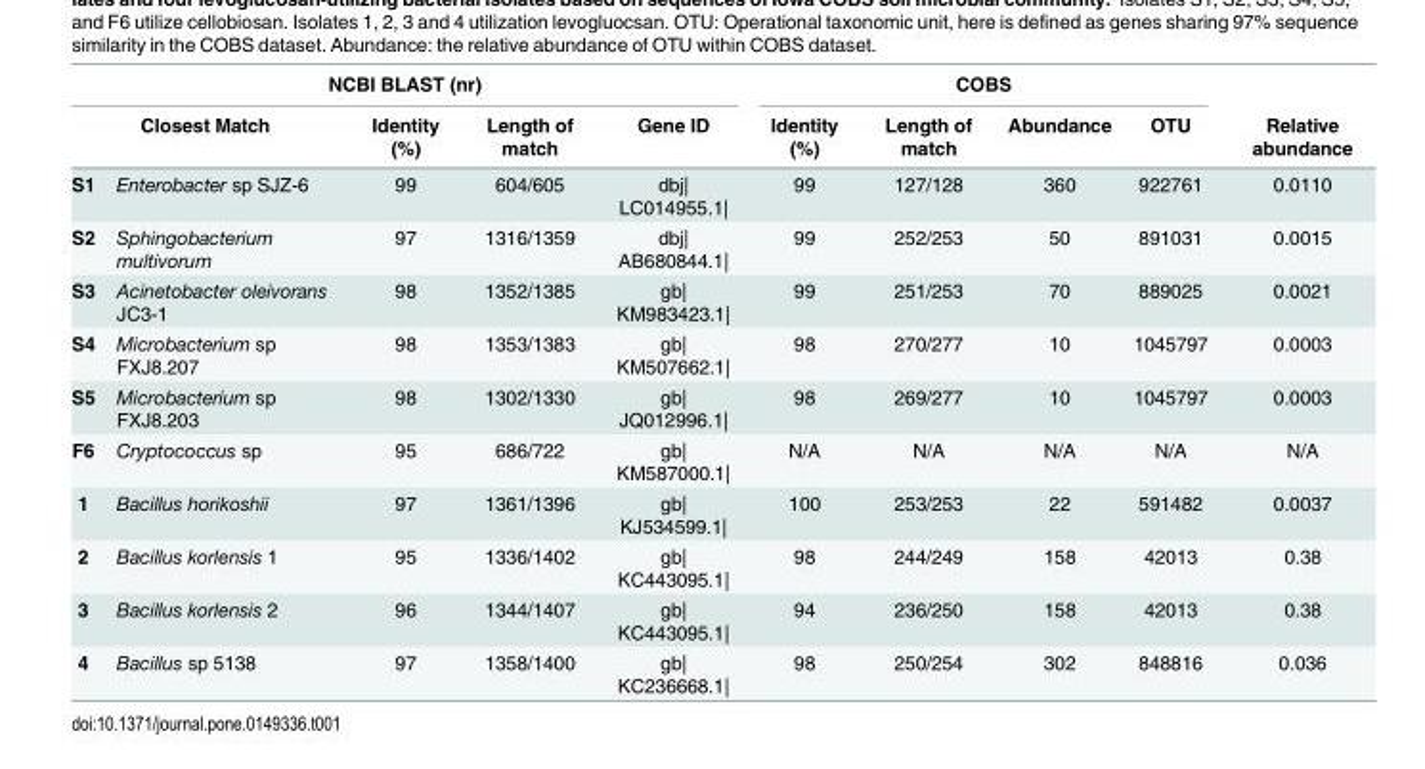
<table><thead><tr><td colspan="5">NCBI BLAST (nr)</td><td colspan="4">COBS</td><td rowspan="3">Relative abundance 0.0110</td></tr><tr><td colspan="2">Closest Match</td><td rowspan="2">Identity (%) 99</td><td rowspan="2">Length of match 604/605</td><td rowspan="2">Gene ID dbj| LC014955.1|</td><td rowspan="2">Identity (%) 99</td><td rowspan="2">Length of match 127/128</td><td rowspan="2">Abundance 360</td><td rowspan="2">OTU 922761</td></tr><tr><td>S1</td><td>Enterobacter sp SJZ-6</td></tr></thead><tbody><tr><td>S2</td><td>Sphingobacterium multivorum</td><td>97</td><td>1316/1359</td><td>dbj| AB680844.1|</td><td>99</td><td>252/253</td><td>50</td><td>891031</td><td>0.0015</td></tr><tr><td>S3</td><td>Acinetobacter oleivorans JC3-1</td><td>98</td><td>1352/1385</td><td>gb| KM983423.1|</td><td>99</td><td>251/253</td><td>70</td><td>889025</td><td>0.0021</td></tr><tr><td>S4</td><td>Microbacterium sp FXJ8.207</td><td>98</td><td>1353/1383</td><td>gb| KM507662.1|</td><td>98</td><td>270/277</td><td>10</td><td>1045797</td><td>0.0003</td></tr><tr><td>S5</td><td>Microbacterium sp FXJ8.203</td><td>98</td><td>1302/1330</td><td>gb| JQ012996.1|</td><td>98</td><td>269/277</td><td>10</td><td>1045797</td><td>0.0003</td></tr><tr><td>F6</td><td>Cryptococcus sp</td><td>95</td><td>686/722</td><td>gb| KM587000.1|</td><td>N/A</td><td>N/A</td><td>N/A</td><td>N/A</td><td>N/A</td></tr><tr><td>1</td><td>Bacillus horikoshii</td><td>97</td><td>1361/1396</td><td>gb| KJ534599.1|</td><td>100</td><td>253/253</td><td>22</td><td>591482</td><td>0.0037</td></tr><tr><td>2</td><td>Bacillus korlensis 1</td><td>95</td><td>1336/1402</td><td>gb| KC443095.1|</td><td>98</td><td>244/249</td><td>158</td><td>42013</td><td>0.38</td></tr><tr><td>3</td><td>Bacillus korlensis 2</td><td>96</td><td>1344/1407</td><td>gb| KC443095.1|</td><td>94</td><td>236/250</td><td>158</td><td>42013</td><td>0.38</td></tr><tr><td>4</td><td>Bacillus sp 5138</td><td>97</td><td>1358/1400</td><td>gb| KC236668.1|</td><td>98</td><td>250/254</td><td>302</td><td>848816</td><td>0.036</td></tr></tbody></table>